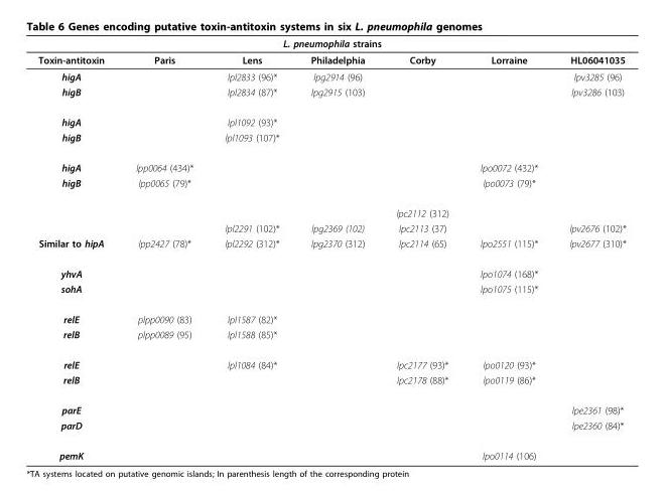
<table><thead><tr><td colspan="7">L. pneumophila strains</td></tr><tr><td>Toxin-antitoxin</td><td>Paris</td><td>Lens</td><td>Philadelphia</td><td>Corby</td><td>Lorraine</td><td>HL06041035</td></tr></thead><tbody><tr><td>higA</td><td></td><td>lpl2833 (96)*</td><td>lpg2914 (96)</td><td></td><td></td><td>lpv3285 (96)</td></tr><tr><td>higB</td><td></td><td>lpl2834 (87)*</td><td>lpg2915 (103)</td><td></td><td></td><td>lpv3286 (103)</td></tr><tr><td>higA</td><td></td><td>lpl1092 (93)*</td><td></td><td></td><td></td><td></td></tr><tr><td>higB</td><td></td><td>lpl1093 (107)*</td><td></td><td></td><td></td><td></td></tr><tr><td>higA</td><td>lpp0064 (434)*</td><td></td><td></td><td></td><td>lpo0072 (432)*</td><td></td></tr><tr><td rowspan="3">higB</td><td>lpp0065 (79)*</td><td></td><td></td><td></td><td>lpo0073 (79)*</td><td></td></tr><tr><td></td><td></td><td></td><td>lpc2112 (312)</td><td></td><td></td></tr><tr><td></td><td>lpl2291 (102)*</td><td>lpg2369 (102)</td><td>lpc2113 (37)</td><td></td><td>lpv2676 (102)*</td></tr><tr><td>Similar to hipA</td><td>lpp2427 (78)*</td><td>lpl2292 (312)*</td><td>lpg2370 (312)</td><td>lpc2114 (65)</td><td>lpo2551 (115)*</td><td>lpv2677 (310)*</td></tr><tr><td>yhvA</td><td></td><td></td><td></td><td></td><td>lpo1074 (168)*</td><td></td></tr><tr><td>sohA</td><td></td><td></td><td></td><td></td><td>lpo1075 (115)*</td><td></td></tr><tr><td>relE</td><td>plpp0090 (83)</td><td>lpl1587 (82)*</td><td></td><td></td><td></td><td></td></tr><tr><td>relB</td><td>plpp0089 (95)</td><td>lpl1588 (85)*</td><td></td><td></td><td></td><td></td></tr><tr><td>relE</td><td></td><td>lpl1084 (84)*</td><td></td><td>lpc2177 (93)*</td><td>lpo0120 (93)*</td><td></td></tr><tr><td>relB</td><td></td><td></td><td></td><td>lpc2178 (88)*</td><td>lpo0119 (86)*</td><td></td></tr><tr><td>parE</td><td></td><td></td><td></td><td></td><td></td><td>lpe2361 (98)*</td></tr><tr><td>parD</td><td></td><td></td><td></td><td></td><td></td><td>lpe2360 (84)*</td></tr><tr><td>pemK</td><td></td><td></td><td></td><td></td><td>lpo0114 (106)</td><td></td></tr></tbody></table>